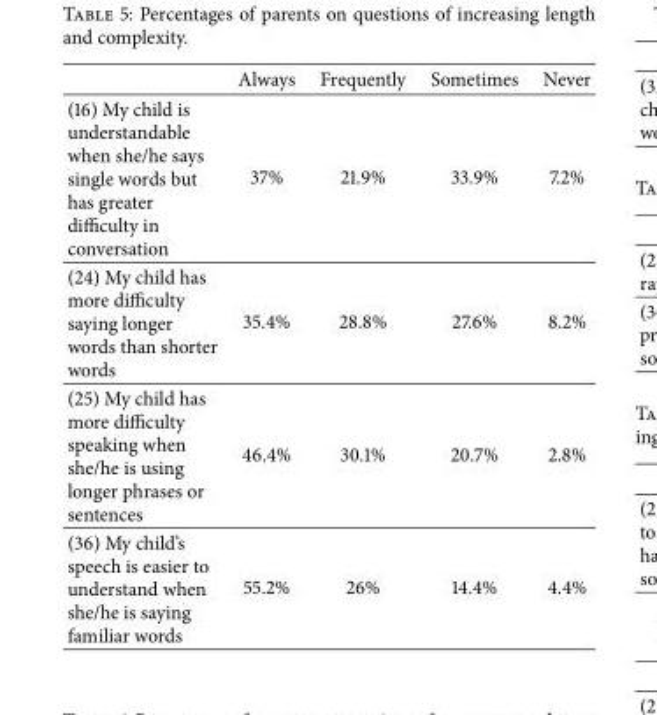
<table><thead><tr><td></td><td>Always</td><td>Frequently</td><td>Sometimes</td><td>Never</td></tr></thead><tbody><tr><td>(16) My child is understandable when she/he says single words but has greater difficulty in conversation</td><td>37%</td><td>21.9%</td><td>33.9%</td><td>7.2%</td></tr><tr><td>(24) My child has more difficulty saying longer words than shorter words</td><td>35.4%</td><td>28.8%</td><td>27.6%</td><td>8.2%</td></tr><tr><td>(25) My child has more difficulty speaking when she/he is using longer phrases or sentences</td><td>46.4%</td><td>30.1%</td><td>20.7%</td><td>2.8%</td></tr><tr><td>(36) My child’s speech is easier to understand when she/he is saying familiar words</td><td>55.2%</td><td>26%</td><td>14.4%</td><td>4.4%</td></tr></tbody></table>